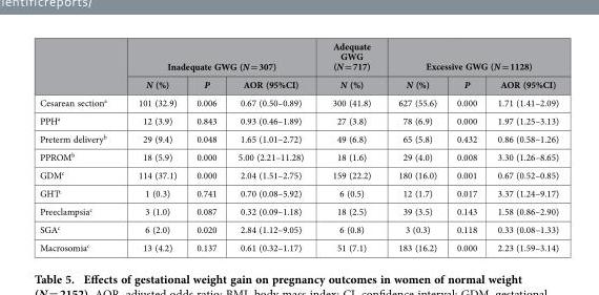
<table><thead><tr><td rowspan="2"></td><td colspan="3">Inadequate GWG (N = 307)</td><td rowspan="2">Adequate GWG (N = 717) N (%)</td><td colspan="3">Excessive GWG (N = 1128)</td></tr><tr><td>N (%)</td><td>P</td><td>AOR (95%CI)</td><td>N (%)</td><td>P</td><td>AOR (95%CI)</td></tr></thead><tbody><tr><td>Cesarean section<sup>a</sup></td><td>101 (32.9)</td><td>0.006</td><td>0.67 (0.50–0.89)</td><td>300 (41.8)</td><td>627 (55.6)</td><td>0.000</td><td>1.71 (1.41–2.09)</td></tr><tr><td>PPH<sup>a</sup></td><td>12 (3.9)</td><td>0.843</td><td>0.93 (0.46–1.89)</td><td>27 (3.8)</td><td>78 (6.9)</td><td>0.000</td><td>1.97 (1.25–3.13)</td></tr><tr><td>Preterm delivery<sup>b</sup></td><td>29 (9.4)</td><td>0.048</td><td>1.65 (1.01–2.72)</td><td>49 (6.8)</td><td>65 (5.8)</td><td>0.432</td><td>0.86 (0.58–1.26)</td></tr><tr><td>PPROM<sup>b</sup></td><td>18 (5.9)</td><td>0.000</td><td>5.00 (2.21–11.28)</td><td>18 (1.6)</td><td>29 (4.0)</td><td>0.008</td><td>3.30 (1.26–8.65)</td></tr><tr><td>GDM<sup>c</sup></td><td>114 (37.1)</td><td>0.000</td><td>2.04 (1.51–2.75)</td><td>159 (22.2)</td><td>180 (16.0)</td><td>0.001</td><td>0.67 (0.52–0.85)</td></tr><tr><td>GHT<sup>c</sup></td><td>1 (0.3)</td><td>0.741</td><td>0.70 (0.08–5.92)</td><td>6 (0.5)</td><td>12 (1.7)</td><td>0.017</td><td>3.37 (1.24–9.17)</td></tr><tr><td>Preeclampsia<sup>c</sup></td><td>3 (1.0)</td><td>0.087</td><td>0.32 (0.09–1.18)</td><td>18 (2.5)</td><td>39 (3.5)</td><td>0.143</td><td>1.58 (0.86–2.90)</td></tr><tr><td>SGA<sup>c</sup></td><td>6 (2.0)</td><td>0.020</td><td>2.84 (1.12–9.05)</td><td>6 (0.8)</td><td>3 (0.3)</td><td>0.118</td><td>0.33 (0.08–1.33)</td></tr><tr><td>Macrosomia<sup>c</sup></td><td>13 (4.2)</td><td>0.137</td><td>0.61 (0.32–1.17)</td><td>51 (7.1)</td><td>183 (16.2)</td><td>0.000</td><td>2.23 (1.59–3.14)</td></tr></tbody></table>